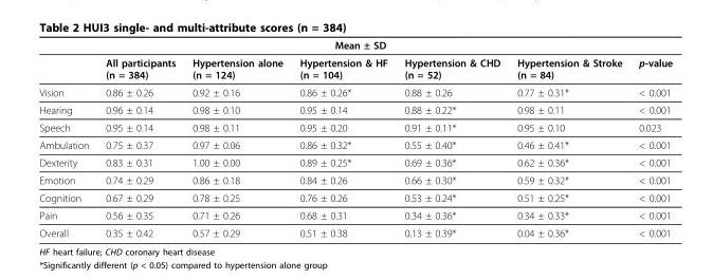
<table><thead><tr><td colspan="7">Mean ± SD</td></tr><tr><td></td><td>All participants (n = 384)</td><td>Hypertension alone (n = 124)</td><td>Hypertension &amp; HF (n = 104)</td><td>Hypertension &amp; CHD (n = 52)</td><td>Hypertension &amp; Stroke (n = 84)</td><td>p-value</td></tr></thead><tbody><tr><td>Vision</td><td>0.86 ± 0.26</td><td>0.92 ± 0.16</td><td>0.86 ± 0.26*</td><td>0.88 ± 0.26</td><td>0.77 ± 0.31*</td><td>&lt; 0.001</td></tr><tr><td>Hearing</td><td>0.96 ± 0.14</td><td>0.98 ± 0.10</td><td>0.95 ± 0.14</td><td>0.88 ± 0.22*</td><td>0.98 ± 0.11</td><td>&lt; 0.001</td></tr><tr><td>Speech</td><td>0.95 ± 0.14</td><td>0.98 ± 0.11</td><td>0.95 ± 0.20</td><td>0.91 ± 0.11*</td><td>0.95 ± 0.10</td><td>0.023</td></tr><tr><td>Ambulation</td><td>0.75 ± 0.37</td><td>0.97 ± 0.06</td><td>0.86 ± 0.32*</td><td>0.55 ± 0.40*</td><td>0.46 ± 0.41*</td><td>&lt; 0.001</td></tr><tr><td>Dexterity</td><td>0.83 ± 0.31</td><td>1.00 ± 0.00</td><td>0.89 ± 0.25*</td><td>0.69 ± 0.36*</td><td>0.62 ± 0.36*</td><td>&lt; 0.001</td></tr><tr><td>Emotion</td><td>0.74 ± 0.29</td><td>0.86 ± 0.18</td><td>0.84 ± 0.26</td><td>0.66 ± 0.30*</td><td>0.59 ± 0.32*</td><td>&lt; 0.001</td></tr><tr><td>Cognition</td><td>0.67 ± 0.29</td><td>0.78 ± 0.25</td><td>0.76 ± 0.26</td><td>0.53 ± 0.24*</td><td>0.51 ± 0.25*</td><td>&lt; 0.001</td></tr><tr><td>Pain</td><td>0.56 ± 0.35</td><td>0.71 ± 0.26</td><td>0.68 ± 0.31</td><td>0.34 ± 0.36*</td><td>0.34 ± 0.33*</td><td>&lt; 0.001</td></tr><tr><td>Overall</td><td>0.35 ± 0.42</td><td>0.57 ± 0.29</td><td>0.51 ± 0.38</td><td>0.13 ± 0.39*</td><td>0.04 ± 0.36*</td><td>&lt; 0.001</td></tr></tbody></table>